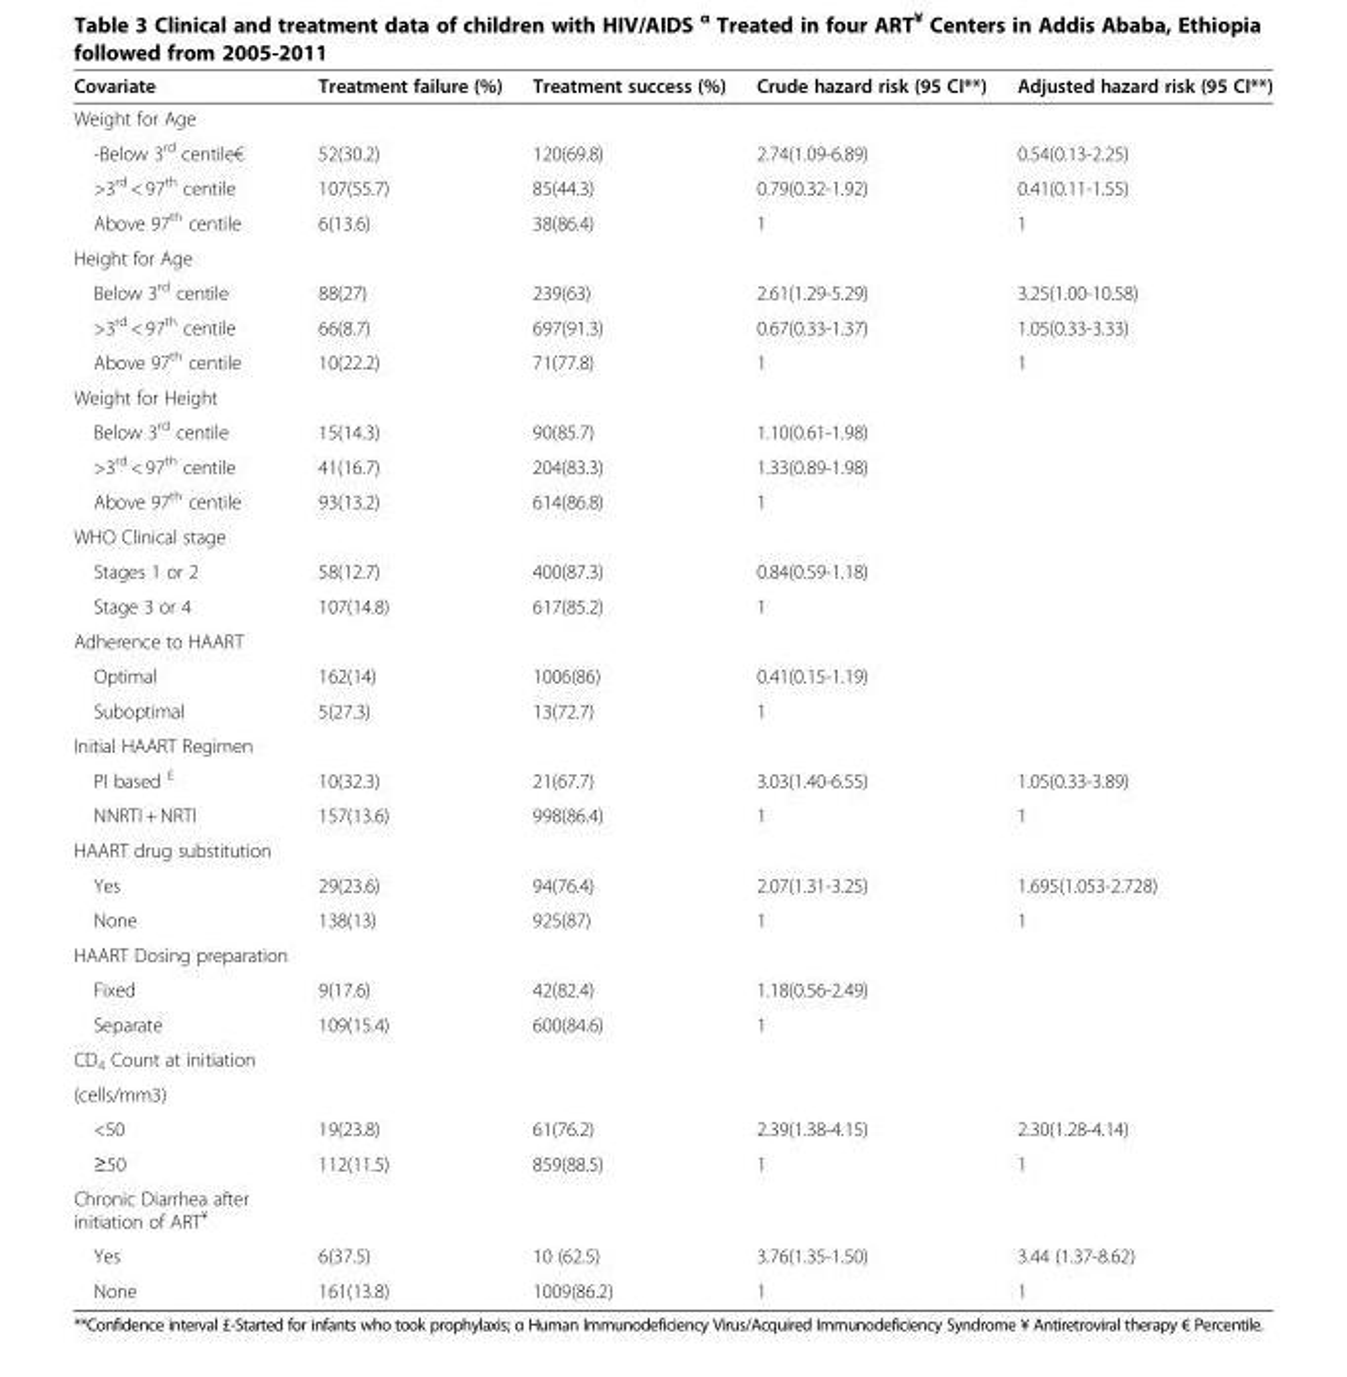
<table><thead><tr><td>Covariate</td><td>Treatment failure (%)</td><td>Treatment success (%)</td><td>Crude hazard risk (95 CI**)</td><td>Adjusted hazard risk (95 CI**)</td></tr></thead><tbody><tr><td colspan="5">Weight for Age</td></tr><tr><td>-Below 3<sup>rd</sup> centile€</td><td>52(30.2)</td><td>120(69.8)</td><td>2.74(1.09-6.89)</td><td>0.54(0.13-2.25)</td></tr><tr><td>&gt;3<sup>rd</sup> &lt; 97<sup>th</sup> centile</td><td>107(55.7)</td><td>85(44.3)</td><td>0.79(0.32-1.92)</td><td>0.41(0.11-1.55)</td></tr><tr><td>Above 97<sup>th</sup> centile</td><td>6(13.6)</td><td>38(86.4)</td><td>1</td><td>1</td></tr><tr><td colspan="5">Height for Age</td></tr><tr><td>Below 3<sup>rd</sup> centile</td><td>88(27)</td><td>239(63)</td><td>2.61(1.29-5.29)</td><td>3.25(1.00-10.58)</td></tr><tr><td>&gt;3<sup>rd</sup> &lt; 97<sup>th</sup> centile</td><td>66(8.7)</td><td>697(91.3)</td><td>0.67(0.33-1.37)</td><td>1.05(0.33-3.33)</td></tr><tr><td>Above 97<sup>th</sup> centile</td><td>10(22.2)</td><td>71(77.8)</td><td>1</td><td>1</td></tr><tr><td colspan="5">Weight for Height</td></tr><tr><td>Below 3<sup>rd</sup> centile</td><td>15(14.3)</td><td>90(85.7)</td><td>1.10(0.61-1.98)</td><td></td></tr><tr><td>&gt;3<sup>rd</sup> &lt; 97<sup>th</sup> centile</td><td>41(16.7)</td><td>204(83.3)</td><td>1.33(0.89-1.98)</td><td></td></tr><tr><td>Above 97<sup>th</sup> centile</td><td>93(13.2)</td><td>614(86.8)</td><td>1</td><td></td></tr><tr><td colspan="5">WHO Clinical stage</td></tr><tr><td>Stages 1 or 2</td><td>58(12.7)</td><td>400(87.3)</td><td>0.84(0.59-1.18)</td><td></td></tr><tr><td>Stage 3 or 4</td><td>107(14.8)</td><td>617(85.2)</td><td>1</td><td></td></tr><tr><td colspan="5">Adherence to HAART</td></tr><tr><td>Optimal</td><td>162(14)</td><td>1006(86)</td><td>0.41(0.15-1.19)</td><td></td></tr><tr><td>Suboptimal</td><td>5(27.3)</td><td>13(72.7)</td><td>1</td><td></td></tr><tr><td colspan="5">Initial HAART Regimen</td></tr><tr><td>PI based <sup>£</sup></td><td>10(32.3)</td><td>21(67.7)</td><td>3.03(1.40-6.55)</td><td>1.05(0.33-3.89)</td></tr><tr><td>NNRTI + NRTI</td><td>157(13.6)</td><td>998(86.4)</td><td>1</td><td>1</td></tr><tr><td colspan="5">HAART drug substitution</td></tr><tr><td>Yes</td><td>29(23.6)</td><td>94(76.4)</td><td>2.07(1.31-3.25)</td><td>1.695(1.053-2.728)</td></tr><tr><td>None</td><td>138(13)</td><td>925(87)</td><td>1</td><td>1</td></tr><tr><td colspan="5">HAART Dosing preparation</td></tr><tr><td>Fixed</td><td>9(17.6)</td><td>42(82.4)</td><td>1.18(0.56-2.49)</td><td></td></tr><tr><td>Separate</td><td>109(15.4)</td><td>600(84.6)</td><td>1</td><td></td></tr><tr><td colspan="5">CD<sub>4</sub> Count at initiation</td></tr><tr><td colspan="5">(cells/mm3)</td></tr><tr><td>&lt;50</td><td>19(23.8)</td><td>61(76.2)</td><td>2.39(1.38-4.15)</td><td>2.30(1.28-4.14)</td></tr><tr><td>≥50</td><td>112(11.5)</td><td>859(88.5)</td><td>1</td><td>1</td></tr><tr><td colspan="5">Chronic Diarrhea after initiation of ART<sup>¥</sup></td></tr><tr><td>Yes</td><td>6(37.5)</td><td>10 (62.5)</td><td>3.76(1.35-1.50)</td><td>3.44 (1.37-8.62)</td></tr><tr><td>None</td><td>161(13.8)</td><td>1009(86.2)</td><td>1</td><td>1</td></tr></tbody></table>